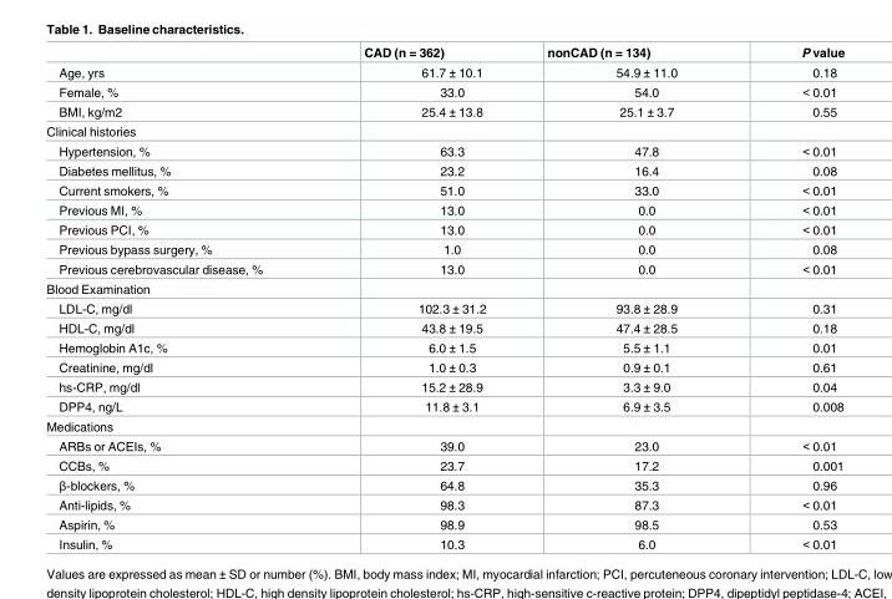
<table><thead><tr><td></td><td>CAD (n = 362)</td><td>nonCAD (n = 134)</td><td>P value</td></tr></thead><tbody><tr><td>Age, yrs</td><td>61.7 ± 10.1</td><td>54.9 ± 11.0</td><td>0.18</td></tr><tr><td>Female, %</td><td>33.0</td><td>54.0</td><td>&lt; 0.01</td></tr><tr><td>BMI, kg/m2</td><td>25.4 ± 13.8</td><td>25.1 ± 3.7</td><td>0.55</td></tr><tr><td colspan="4">Clinical histories</td></tr><tr><td>Hypertension, %</td><td>63.3</td><td>47.8</td><td>&lt; 0.01</td></tr><tr><td>Diabetes mellitus, %</td><td>23.2</td><td>16.4</td><td>0.08</td></tr><tr><td>Current smokers, %</td><td>51.0</td><td>33.0</td><td>&lt; 0.01</td></tr><tr><td>Previous MI, %</td><td>13.0</td><td>0.0</td><td>&lt; 0.01</td></tr><tr><td>Previous PCI, %</td><td>13.0</td><td>0.0</td><td>&lt; 0.01</td></tr><tr><td>Previous bypass surgery, %</td><td>1.0</td><td>0.0</td><td>0.08</td></tr><tr><td>Previous cerebrovascular disease, %</td><td>13.0</td><td>0.0</td><td>&lt; 0.01</td></tr><tr><td colspan="4">Blood Examination</td></tr><tr><td>LDL-C, mg/dl</td><td>102.3 ± 31.2</td><td>93.8 ± 28.9</td><td>0.31</td></tr><tr><td>HDL-C, mg/dl</td><td>43.8 ± 19.5</td><td>47.4 ± 28.5</td><td>0.18</td></tr><tr><td>Hemoglobin A1c, %</td><td>6.0 ± 1.5</td><td>5.5 ± 1.1</td><td>0.01</td></tr><tr><td>Creatinine, mg/dl</td><td>1.0 ± 0.3</td><td>0.9 ± 0.1</td><td>0.61</td></tr><tr><td>hs-CRP, mg/dl</td><td>15.2 ± 28.9</td><td>3.3 ± 9.0</td><td>0.04</td></tr><tr><td>DPP4, ng/L</td><td>11.8 ± 3.1</td><td>6.9 ± 3.5</td><td>0.008</td></tr><tr><td colspan="4">Medications</td></tr><tr><td>ARBs or ACEIs, %</td><td>39.0</td><td>23.0</td><td>&lt; 0.01</td></tr><tr><td>CCBs, %</td><td>23.7</td><td>17.2</td><td>0.001</td></tr><tr><td>β-blockers, %</td><td>64.8</td><td>35.3</td><td>0.96</td></tr><tr><td>Anti-lipids, %</td><td>98.3</td><td>87.3</td><td>&lt; 0.01</td></tr><tr><td>Aspirin, %</td><td>98.9</td><td>98.5</td><td>0.53</td></tr><tr><td>Insulin, %</td><td>10.3</td><td>6.0</td><td>&lt; 0.01</td></tr></tbody></table>